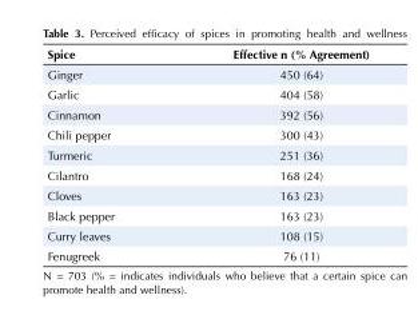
<table><tbody><tr><td>Spice</td><td>Effective n (% Agreement)</td></tr><tr><td>Ginger</td><td>450 (64)</td></tr><tr><td>Garlic</td><td>404 (58)</td></tr><tr><td>Cinnamon</td><td>392 (56)</td></tr><tr><td>Chili pepper</td><td>300 (43)</td></tr><tr><td>Turmeric</td><td>251 (36)</td></tr><tr><td>Cilantro</td><td>168 (24)</td></tr><tr><td>Cloves</td><td>163 (23)</td></tr><tr><td>Black pepper</td><td>163 (23)</td></tr><tr><td>Curry leaves</td><td>108 (15)</td></tr><tr><td>Fenugreek</td><td>76 (11)</td></tr></tbody></table>